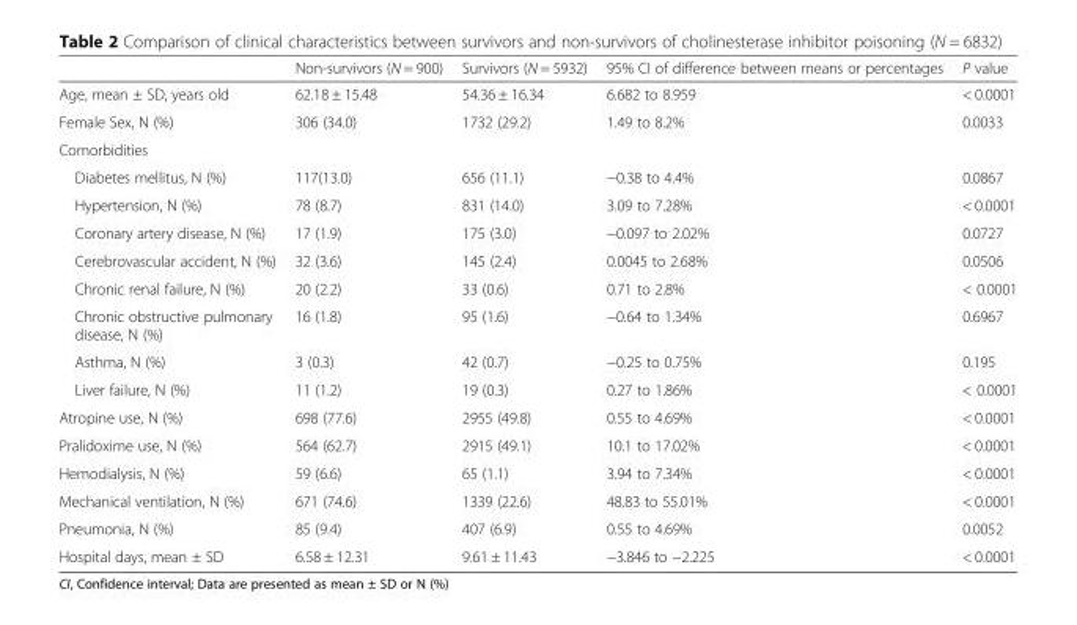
<table><thead><tr><td></td><td>Non-survivors (N = 900)</td><td>Survivors (N = 5932)</td><td>95% CI of difference between means or percentages</td><td>P value</td></tr></thead><tbody><tr><td>Age, mean ± SD, years old</td><td>62.18 ± 15.48</td><td>54.36 ± 16.34</td><td>6.682 to 8.959</td><td>&lt; 0.0001</td></tr><tr><td>Female Sex, N (%)</td><td>306 (34.0)</td><td>1732 (29.2)</td><td>1.49 to 8.2%</td><td>0.0033</td></tr><tr><td colspan="5">Comorbidities</td></tr><tr><td>Diabetes mellitus, N (%)</td><td>117(13.0)</td><td>656 (11.1)</td><td>−0.38 to 4.4%</td><td>0.0867</td></tr><tr><td>Hypertension, N (%)</td><td>78 (8.7)</td><td>831 (14.0)</td><td>3.09 to 7.28%</td><td>&lt; 0.0001</td></tr><tr><td>Coronary artery disease, N (%)</td><td>17 (1.9)</td><td>175 (3.0)</td><td>−0.097 to 2.02%</td><td>0.0727</td></tr><tr><td>Cerebrovascular accident, N (%)</td><td>32 (3.6)</td><td>145 (2.4)</td><td>0.0045 to 2.68%</td><td>0.0506</td></tr><tr><td>Chronic renal failure, N (%)</td><td>20 (2.2)</td><td>33 (0.6)</td><td>0.71 to 2.8%</td><td>&lt; 0.0001</td></tr><tr><td>Chronic obstructive pulmonary disease, N (%)</td><td>16 (1.8)</td><td>95 (1.6)</td><td>−0.64 to 1.34%</td><td>0.6967</td></tr><tr><td>Asthma, N (%)</td><td>3 (0.3)</td><td>42 (0.7)</td><td>−0.25 to 0.75%</td><td>0.195</td></tr><tr><td>Liver failure, N (%)</td><td>11 (1.2)</td><td>19 (0.3)</td><td>0.27 to 1.86%</td><td>&lt; 0.0001</td></tr><tr><td>Atropine use, N (%)</td><td>698 (77.6)</td><td>2955 (49.8)</td><td>0.55 to 4.69%</td><td>&lt; 0.0001</td></tr><tr><td>Pralidoxime use, N (%)</td><td>564 (62.7)</td><td>2915 (49.1)</td><td>10.1 to 17.02%</td><td>&lt; 0.0001</td></tr><tr><td>Hemodialysis, N (%)</td><td>59 (6.6)</td><td>65 (1.1)</td><td>3.94 to 7.34%</td><td>&lt; 0.0001</td></tr><tr><td>Mechanical ventilation, N (%)</td><td>671 (74.6)</td><td>1339 (22.6)</td><td>48.83 to 55.01%</td><td>&lt; 0.0001</td></tr><tr><td>Pneumonia, N (%)</td><td>85 (9.4)</td><td>407 (6.9)</td><td>0.55 to 4.69%</td><td>0.0052</td></tr><tr><td>Hospital days, mean ± SD</td><td>6.58 ± 12.31</td><td>9.61 ± 11.43</td><td>−3.846 to −2.225</td><td>&lt; 0.0001</td></tr></tbody></table>